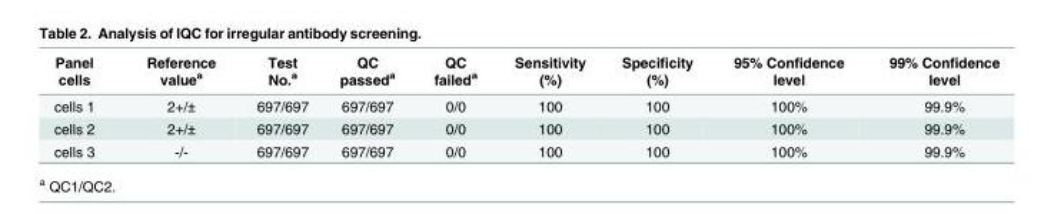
<table><thead><tr><td>Panel cells</td><td>Reference value<sup>a</sup></td><td>Test No.<sup>a</sup></td><td>QC passed<sup>a</sup></td><td>QC failed<sup>a</sup></td><td>Sensitivity (%)</td><td>Specificity (%)</td><td>95% Confidence level</td><td>99% Confidence level</td></tr></thead><tbody><tr><td>cells 1</td><td>2+/±</td><td>697/697</td><td>697/697</td><td>0/0</td><td>100</td><td>100</td><td>100%</td><td>99.9%</td></tr><tr><td>cells 2</td><td>2+/±</td><td>697/697</td><td>697/697</td><td>0/0</td><td>100</td><td>100</td><td>100%</td><td>99.9%</td></tr><tr><td>cells 3</td><td>-/-</td><td>697/697</td><td>697/697</td><td>0/0</td><td>100</td><td>100</td><td>100%</td><td>99.9%</td></tr></tbody></table>